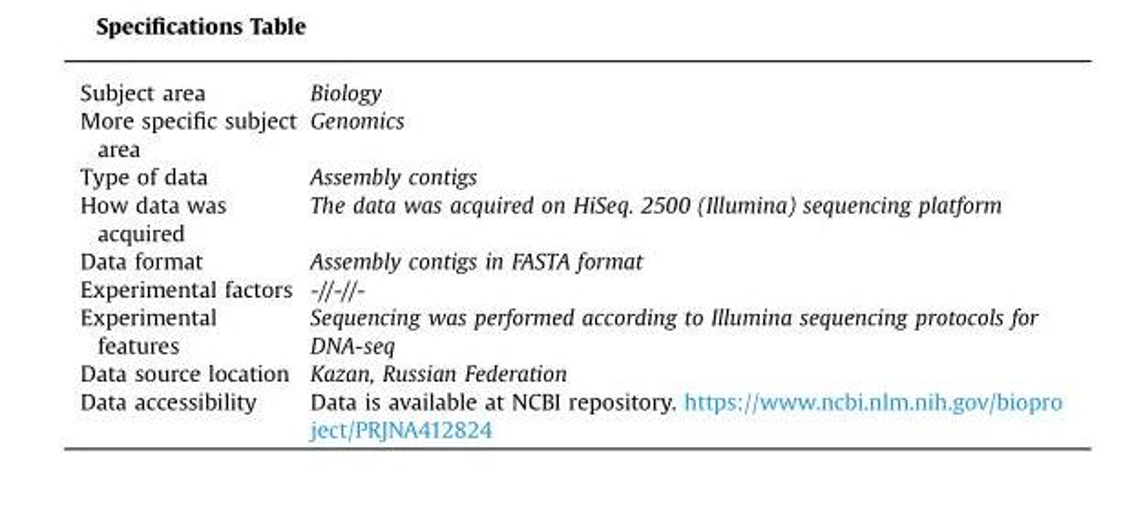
<table><tbody><tr><td>Subject area</td><td>Biology</td></tr><tr><td>More specific subject area</td><td>Genomics</td></tr><tr><td>Type of data</td><td>Assembly contigs</td></tr><tr><td>How data was acquired</td><td>The data was acquired on HiSeq. 2500 (Illumina) sequencing platform</td></tr><tr><td>Data format</td><td>Assembly contigs in FASTA format</td></tr><tr><td>Experimental factors</td><td>-//-//-</td></tr><tr><td>Experimental features</td><td>Sequencing was performed according to Illumina sequencing protocols for DNA-seq</td></tr><tr><td>Data source location</td><td>Kazan, Russian Federation</td></tr><tr><td>Data accessibility</td><td>Data is available at NCBI repository. https://www.ncbi.nlm.nih.gov/biopro ject/PRJNA412824</td></tr></tbody></table>